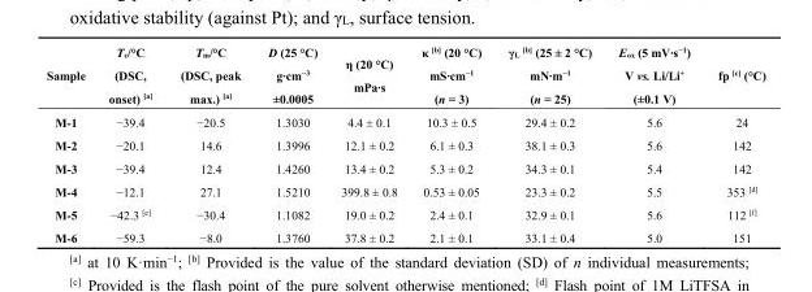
<table><thead><tr><td>Sample</td><td>T<sub>c</sub>/°C (DSC, onset) <sup>[a]</sup></td><td>T<sub>m</sub>/°C (DSC, peak max.) <sup>[a]</sup></td><td>D (25 °C) g·cm−3 ±0.0005</td><td>η (20 °C) mPa·s</td><td>κ [b] (20 °C) mS·cm−1 (n = 3)</td><td>γL [b] (25 ± 2 °C) mN·m−1 (n = 25)</td><td>Eox (5 mV·s−1) V vs. Li/Li+ (±0.1 V)</td><td>fp <sup>[c]</sup> (°C)</td></tr></thead><tbody><tr><td>M-1</td><td>−39.4</td><td>−20.5</td><td>1.3030</td><td>4.4 ± 0.1</td><td>10.3 ± 0.5</td><td>29.4 ± 0.2</td><td>5.6</td><td>24</td></tr><tr><td>M-2</td><td>−20.1</td><td>14.6</td><td>1.3996</td><td>12.1 ± 0.2</td><td>6.1 ± 0.3</td><td>38.1 ± 0.3</td><td>5.6</td><td>142</td></tr><tr><td>M-3</td><td>−39.4</td><td>12.4</td><td>1.4260</td><td>13.4 ± 0.2</td><td>5.3 ± 0.2</td><td>34.3 ± 0.1</td><td>5.4</td><td>142</td></tr><tr><td>M-4</td><td>−12.1</td><td>27.1</td><td>1.5210</td><td>399.8 ± 0.8</td><td>0.53 ± 0.05</td><td>23.3 ± 0.2</td><td>5.5</td><td>353 <sup>[d]</sup></td></tr><tr><td>M-5</td><td>−42.3 <sup>[e]</sup></td><td>−30.4</td><td>1.1082</td><td>19.0 ± 0.2</td><td>2.4 ± 0.1</td><td>32.9 ± 0.1</td><td>5.6</td><td>112 <sup>[f]</sup></td></tr><tr><td>M-6</td><td>−59.3</td><td>−8.0</td><td>1.3760</td><td>37.8 ± 0.2</td><td>2.1 ± 0.1</td><td>33.1 ± 0.4</td><td>5.0</td><td>151</td></tr></tbody></table>